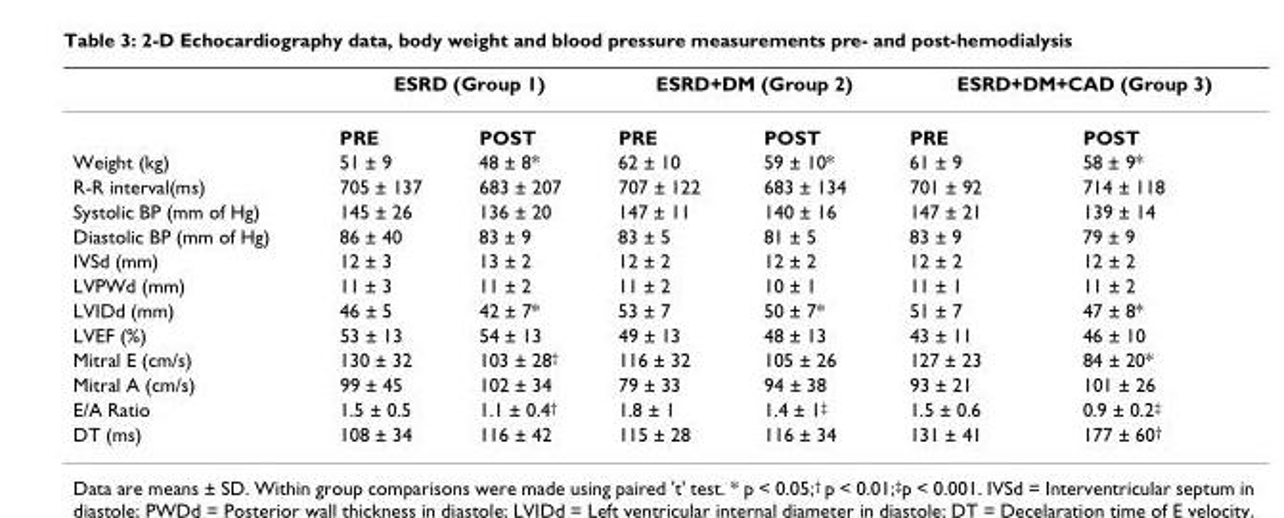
<table><thead><tr><td rowspan="2"></td><td colspan="2">ESRD (Group 1)</td><td colspan="2">ESRD+DM (Group 2)</td><td colspan="2">ESRD+DM+CAD (Group 3)</td></tr><tr><td>PRE</td><td>POST</td><td>PRE</td><td>POST</td><td>PRE</td><td>POST</td></tr></thead><tbody><tr><td>Weight (kg)</td><td>51 ± 9</td><td>48 ± 8*</td><td>62 ± 10</td><td>59 ± 10*</td><td>61 ± 9</td><td>58 ± 9*</td></tr><tr><td>R-R interval(ms)</td><td>705 ± 137</td><td>683 ± 207</td><td>707 ± 122</td><td>683 ± 134</td><td>701 ± 92</td><td>714 ± 118</td></tr><tr><td>Systolic BP (mm of Hg)</td><td>145 ± 26</td><td>136 ± 20</td><td>147 ± 11</td><td>140 ± 16</td><td>147 ± 21</td><td>139 ± 14</td></tr><tr><td>Diastolic BP (mm of Hg)</td><td>86 ± 40</td><td>83 ± 9</td><td>83 ± 5</td><td>81 ± 5</td><td>83 ± 9</td><td>79 ± 9</td></tr><tr><td>IVSd (mm)</td><td>12 ± 3</td><td>13 ± 2</td><td>12 ± 2</td><td>12 ± 2</td><td>12 ± 2</td><td>12 ± 2</td></tr><tr><td>LVPWd (mm)</td><td>11 ± 3</td><td>11 ± 2</td><td>11 ± 2</td><td>10 ± 1</td><td>11 ± 1</td><td>11 ± 2</td></tr><tr><td>LVIDd (mm)</td><td>46 ± 5</td><td>42 ± 7*</td><td>53 ± 7</td><td>50 ± 7*</td><td>51 ± 7</td><td>47 ± 8*</td></tr><tr><td>LVEF (%)</td><td>53 ± 13</td><td>54 ± 13</td><td>49 ± 13</td><td>48 ± 13</td><td>43 ± 11</td><td>46 ± 10</td></tr><tr><td>Mitral E (cm/s)</td><td>130 ± 32</td><td>103 ± 28<sup>†</sup></td><td>116 ± 32</td><td>105 ± 26</td><td>127 ± 23</td><td>84 ± 20*</td></tr><tr><td>Mitral A (cm/s)</td><td>99 ± 45</td><td>102 ± 34</td><td>79 ± 33</td><td>94 ± 38</td><td>93 ± 21</td><td>101 ± 26</td></tr><tr><td>E/A Ratio</td><td>1.5 ± 0.5</td><td>1.1 ± 0.4<sup>†</sup></td><td>1.8 ± 1</td><td>1.4 ± 1<sup>‡</sup></td><td>1.5 ± 0.6</td><td>0.9 ± 0.2<sup>‡</sup></td></tr><tr><td>DT (ms)</td><td>108 ± 34</td><td>116 ± 42</td><td>115 ± 28</td><td>116 ± 34</td><td>131 ± 41</td><td>177 ± 60<sup>†</sup></td></tr></tbody></table>